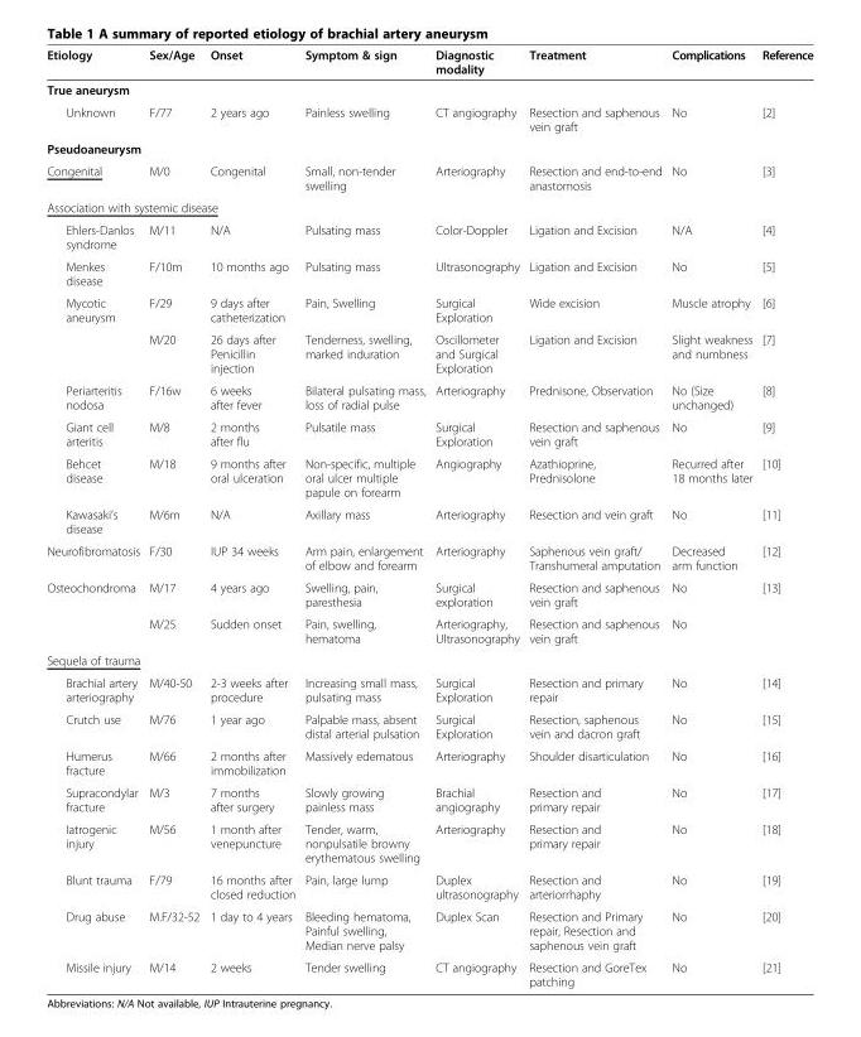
<table><thead><tr><td>Etiology</td><td>Sex/Age</td><td>Onset</td><td>Symptom &amp; sign</td><td>Diagnostic modality</td><td>Treatment</td><td>Complications</td><td>Reference</td></tr></thead><tbody><tr><td colspan="8">True aneurysm</td></tr><tr><td>Unknown</td><td>F/77</td><td>2 years ago</td><td>Painless swelling</td><td>CT angiography</td><td>Resection and saphenous vein graft</td><td>No</td><td>[2]</td></tr><tr><td colspan="8">Pseudoaneurysm</td></tr><tr><td>Congenital</td><td>M/0</td><td>Congenital</td><td>Small, non-tender swelling</td><td>Arteriography</td><td>Resection and end-to-end anastomosis</td><td>No</td><td>[3]</td></tr><tr><td colspan="8">Association with systemic disease</td></tr><tr><td>Ehlers-Danlos syndrome</td><td>M/11</td><td>N/A</td><td>Pulsating mass</td><td>Color-Doppler</td><td>Ligation and Excision</td><td>N/A</td><td>[4]</td></tr><tr><td>Menkes disease</td><td>F/10m</td><td>10 months ago</td><td>Pulsating mass</td><td>Ultrasonography</td><td>Ligation and Excision</td><td>No</td><td>[5]</td></tr><tr><td rowspan="2">Mycotic aneurysm</td><td>F/29</td><td>9 days after catheterization</td><td>Pain, Swelling</td><td>Surgical Exploration</td><td>Wide excision</td><td>Muscle atrophy</td><td>[6]</td></tr><tr><td>M/20</td><td>26 days after Penicillin injection</td><td>Tenderness, swelling, marked induration</td><td>Oscillometer and Surgical Exploration</td><td>Ligation and Excision</td><td>Slight weakness and numbness</td><td>[7]</td></tr><tr><td>Periarteritis nodosa</td><td>F/16w</td><td>6 weeks after fever</td><td>Bilateral pulsating mass, loss of radial pulse</td><td>Arteriography</td><td>Prednisone, Observation</td><td>No (Size unchanged)</td><td>[8]</td></tr><tr><td>Giant cell arteritis</td><td>M/8</td><td>2 months after flu</td><td>Pulsatile mass</td><td>Surgical Exploration</td><td>Resection and saphenous vein graft</td><td>No</td><td>[9]</td></tr><tr><td>Behcet disease</td><td>M/18</td><td>9 months after oral ulceration</td><td>Non-specific, multiple oral ulcer multiple papule on forearm</td><td>Angiography</td><td>Azathioprine, Prednisolone</td><td>Recurred after 18 months later</td><td>[10]</td></tr><tr><td>Kawasaki’s disease</td><td>M/6m</td><td>N/A</td><td>Axillary mass</td><td>Arteriography</td><td>Resection and vein graft</td><td>No</td><td>[11]</td></tr><tr><td>Neurofibromatosis</td><td>F/30</td><td>IUP 34 weeks</td><td>Arm pain, enlargement of elbow and forearm</td><td>Arteriography</td><td>Saphenous vein graft/ Transhumeral amputation</td><td>Decreased arm function</td><td>[12]</td></tr><tr><td rowspan="2">Osteochondroma</td><td>M/17</td><td>4 years ago</td><td>Swelling, pain, paresthesia</td><td>Surgical exploration</td><td>Resection and saphenous vein graft</td><td>No</td><td>[13]</td></tr><tr><td>M/25</td><td>Sudden onset</td><td>Pain, swelling, hematoma</td><td>Arteriography, Ultrasonography</td><td>Resection and saphenous vein graft</td><td>No</td><td></td></tr><tr><td colspan="8">Sequela of trauma</td></tr><tr><td>Brachial artery arteriography</td><td>M/40-50</td><td>2-3 weeks after procedure</td><td>Increasing small mass, pulsating mass</td><td>Surgical Exploration</td><td>Resection and primary repair</td><td>No</td><td>[14]</td></tr><tr><td>Crutch use</td><td>M/76</td><td>1 year ago</td><td>Palpable mass, absent distal arterial pulsation</td><td>Surgical Exploration</td><td>Resection, saphenous vein and dacron graft</td><td>No</td><td>[15]</td></tr><tr><td>Humerus fracture</td><td>M/66</td><td>2 months after immobilization</td><td>Massively edematous</td><td>Arteriography</td><td>Shoulder disarticulation</td><td>No</td><td>[16]</td></tr><tr><td>Supracondylar fracture</td><td>M/3</td><td>7 months after surgery</td><td>Slowly growing painless mass</td><td>Brachial angiography</td><td>Resection and primary repair</td><td>No</td><td>[17]</td></tr><tr><td>Iatrogenic injury</td><td>M/56</td><td>1 month after venepuncture</td><td>Tender, warm, nonpulsatile browny erythematous swelling</td><td>Arteriography</td><td>Resection and primary repair</td><td>No</td><td>[18]</td></tr><tr><td>Blunt trauma</td><td>F/79</td><td>16 months after closed reduction</td><td>Pain, large lump</td><td>Duplex ultrasonography</td><td>Resection and arteriorrhaphy</td><td>No</td><td>[19]</td></tr><tr><td>Drug abuse</td><td>M.F/32-52</td><td>1 day to 4 years</td><td>Bleeding hematoma, Painful swelling, Median nerve palsy</td><td>Duplex Scan</td><td>Resection and Primary repair, Resection and saphenous vein graft</td><td>No</td><td>[20]</td></tr><tr><td>Missile injury</td><td>M/14</td><td>2 weeks</td><td>Tender swelling</td><td>CT angiography</td><td>Resection and GoreTex patching</td><td>No</td><td>[21]</td></tr></tbody></table>